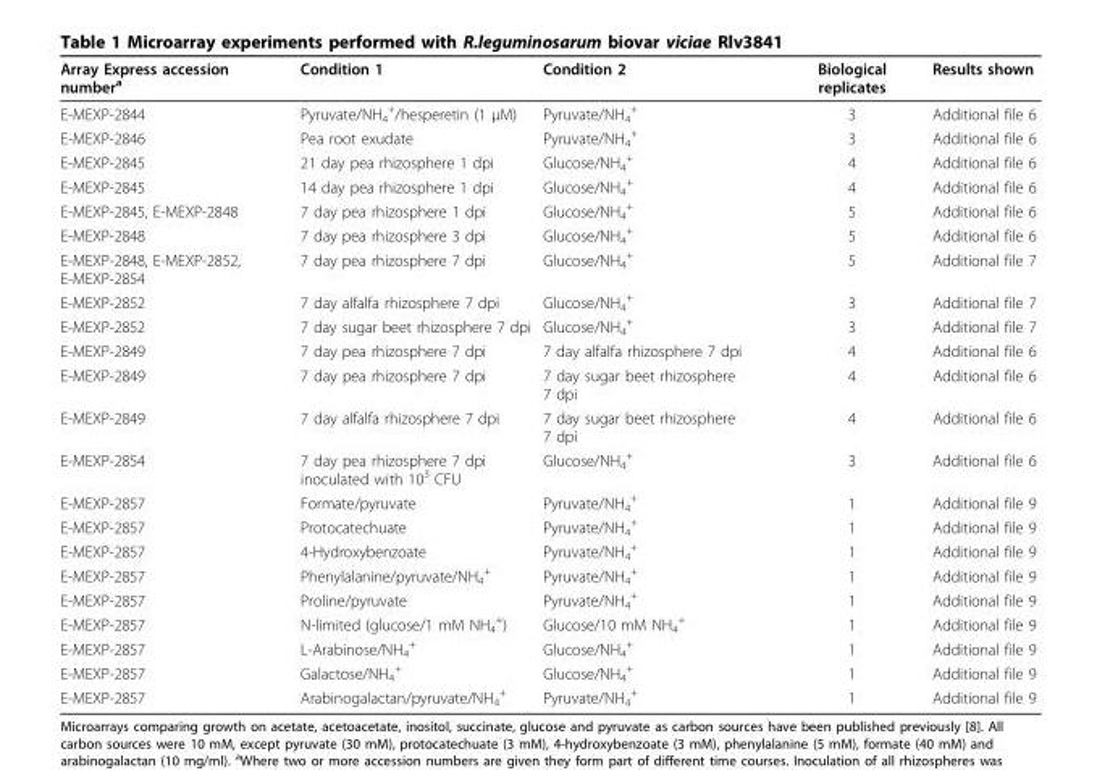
<table><thead><tr><td>Array Express accession number<sup>a</sup></td><td>Condition 1</td><td>Condition 2</td><td>Biological replicates</td><td>Results shown</td></tr></thead><tbody><tr><td>E-MEXP-2844</td><td>Pyruvate/NH<sub>4</sub> <sup>+</sup>/hesperetin (1 μM)</td><td>Pyruvate/NH<sub>4</sub> <sup>+</sup></td><td>3</td><td>Additional file 6</td></tr><tr><td>E-MEXP-2846</td><td>Pea root exudate</td><td>Pyruvate/NH<sub>4</sub> <sup>+</sup></td><td>3</td><td>Additional file 6</td></tr><tr><td>E-MEXP-2845</td><td>21 day pea rhizosphere 1 dpi</td><td>Glucose/NH<sub>4</sub> <sup>+</sup></td><td>4</td><td>Additional file 6</td></tr><tr><td>E-MEXP-2845</td><td>14 day pea rhizosphere 1 dpi</td><td>Glucose/NH<sub>4</sub> <sup>+</sup></td><td>4</td><td>Additional file 6</td></tr><tr><td>E-MEXP-2845, E-MEXP-2848</td><td>7 day pea rhizosphere 1 dpi</td><td>Glucose/NH<sub>4</sub> <sup>+</sup></td><td>5</td><td>Additional file 6</td></tr><tr><td>E-MEXP-2848</td><td>7 day pea rhizosphere 3 dpi</td><td>Glucose/NH<sub>4</sub> <sup>+</sup></td><td>5</td><td>Additional file 6</td></tr><tr><td>E-MEXP-2848, E-MEXP-2852, E-MEXP-2854</td><td>7 day pea rhizosphere 7 dpi</td><td>Glucose/NH<sub>4</sub> <sup>+</sup></td><td>5</td><td>Additional file 7</td></tr><tr><td>E-MEXP-2852</td><td>7 day alfalfa rhizosphere 7 dpi</td><td>Glucose/NH<sub>4</sub> <sup>+</sup></td><td>3</td><td>Additional file 7</td></tr><tr><td>E-MEXP-2852</td><td>7 day sugar beet rhizosphere 7 dpi</td><td>Glucose/NH<sub>4</sub> <sup>+</sup></td><td>3</td><td>Additional file 7</td></tr><tr><td>E-MEXP-2849</td><td>7 day pea rhizosphere 7 dpi</td><td>7 day alfalfa rhizosphere 7 dpi</td><td>4</td><td>Additional file 6</td></tr><tr><td>E-MEXP-2849</td><td>7 day pea rhizosphere 7 dpi</td><td>7 day sugar beet rhizosphere 7 dpi</td><td>4</td><td>Additional file 6</td></tr><tr><td>E-MEXP-2849</td><td>7 day alfalfa rhizosphere 7 dpi</td><td>7 day sugar beet rhizosphere 7 dpi</td><td>4</td><td>Additional file 6</td></tr><tr><td>E-MEXP-2854</td><td>7 day pea rhizosphere 7 dpi inoculated with 10<sup>3</sup> CFU</td><td>Glucose/NH<sub>4</sub> <sup>+</sup></td><td>3</td><td>Additional file 6</td></tr><tr><td>E-MEXP-2857</td><td>Formate/pyruvate</td><td>Pyruvate/NH<sub>4</sub> <sup>+</sup></td><td>1</td><td>Additional file 9</td></tr><tr><td>E-MEXP-2857</td><td>Protocatechuate</td><td>Pyruvate/NH<sub>4</sub> <sup>+</sup></td><td>1</td><td>Additional file 9</td></tr><tr><td>E-MEXP-2857</td><td>4-Hydroxybenzoate</td><td>Pyruvate/NH<sub>4</sub> <sup>+</sup></td><td>1</td><td>Additional file 9</td></tr><tr><td>E-MEXP-2857</td><td>Phenylalanine/pyruvate/NH<sub>4</sub> <sup>+</sup></td><td>Pyruvate/NH<sub>4</sub> <sup>+</sup></td><td>1</td><td>Additional file 9</td></tr><tr><td>E-MEXP-2857</td><td>Proline/pyruvate</td><td>Pyruvate/NH<sub>4</sub> <sup>+</sup></td><td>1</td><td>Additional file 9</td></tr><tr><td>E-MEXP-2857</td><td>N-limited (glucose/1 mM NH<sub>4</sub> <sup>+</sup>)</td><td>Glucose/10 mM NH<sub>4</sub> <sup>+</sup></td><td>1</td><td>Additional file 9</td></tr><tr><td>E-MEXP-2857</td><td>L-Arabinose/NH<sub>4</sub> <sup>+</sup></td><td>Glucose/NH<sub>4</sub> <sup>+</sup></td><td>1</td><td>Additional file 9</td></tr><tr><td>E-MEXP-2857</td><td>Galactose/NH<sub>4</sub> <sup>+</sup></td><td>Glucose/NH<sub>4</sub> <sup>+</sup></td><td>1</td><td>Additional file 9</td></tr><tr><td>E-MEXP-2857</td><td>Arabinogalactan/pyruvate/NH<sub>4</sub> <sup>+</sup></td><td>Pyruvate/NH<sub>4</sub> <sup>+</sup></td><td>1</td><td>Additional file 9</td></tr></tbody></table>